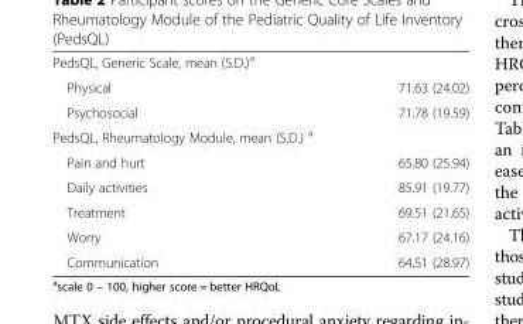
<table><tbody><tr><td colspan="2">PedsQL, Generic Scale, mean (S.D.)<sup>a</sup></td></tr><tr><td>Physical</td><td>71.63 (24.02)</td></tr><tr><td>Psychosocial</td><td>71.78 (19.59)</td></tr><tr><td colspan="2">PedsQL, Rheumatology Module, mean (S.D.) <sup>a</sup></td></tr><tr><td>Pain and hurt</td><td>65.80 (25.94)</td></tr><tr><td>Daily activities</td><td>85.91 (19.77)</td></tr><tr><td>Treatment</td><td>69.51 (21.65)</td></tr><tr><td>Worry</td><td>67.17 (24.16)</td></tr><tr><td>Communication</td><td>64.51 (28.97)</td></tr></tbody></table>